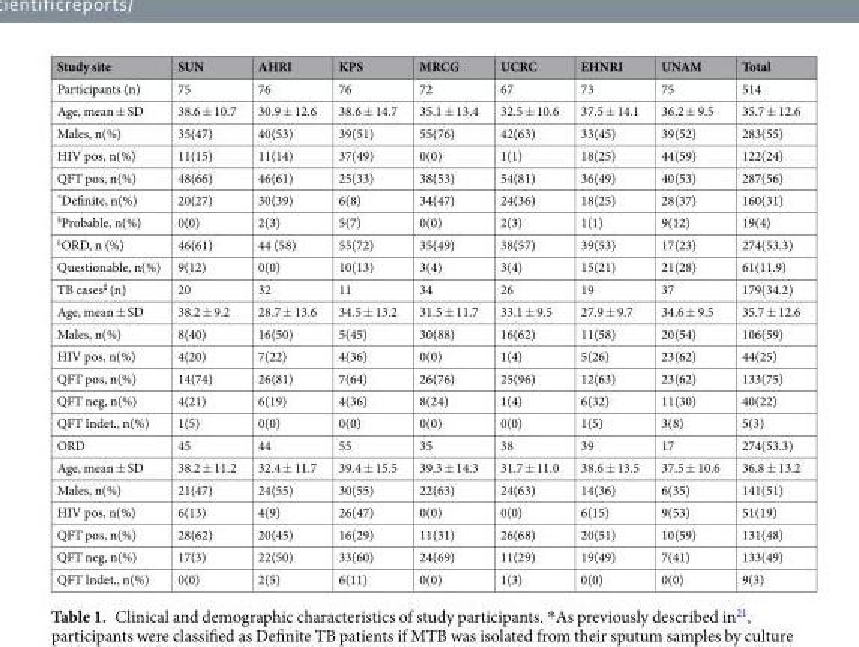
<table><thead><tr><td>Study site</td><td>SUN</td><td>AHRI</td><td>KPS</td><td>MRCG</td><td>UCRC</td><td>EHNRI</td><td>UNAM</td><td>Total</td></tr></thead><tbody><tr><td>Participants (n)</td><td>75</td><td>76</td><td>76</td><td>72</td><td>67</td><td>73</td><td>75</td><td>514</td></tr><tr><td>Age, mean ± SD</td><td>38.6 ± 10.7</td><td>30.9 ± 12.6</td><td>38.6 ± 14.7</td><td>35.1 ± 13.4</td><td>32.5 ± 10.6</td><td>37.5 ± 14.1</td><td>36.2 ± 9.5</td><td>35.7 ± 12.6</td></tr><tr><td>Males, n(%)</td><td>35(47)</td><td>40(53)</td><td>39(51)</td><td>55(76)</td><td>42(63)</td><td>33(45)</td><td>39(52)</td><td>283(55)</td></tr><tr><td>HIV pos, n(%)</td><td>11(15)</td><td>11(14)</td><td>37(49)</td><td>0(0)</td><td>1(1)</td><td>18(25)</td><td>44(59)</td><td>122(24)</td></tr><tr><td>QFT pos, n(%)</td><td>48(66)</td><td>46(61)</td><td>25(33)</td><td>38(53)</td><td>54(81)</td><td>36(49)</td><td>40(53)</td><td>287(56)</td></tr><tr><td>*Definite, n(%)</td><td>20(27)</td><td>30(39)</td><td>6(8)</td><td>34(47)</td><td>24(36)</td><td>18(25)</td><td>28(37)</td><td>160(31)</td></tr><tr><td><sup>$</sup>Probable, n(%)</td><td>0(0)</td><td>2(3)</td><td>5(7)</td><td>0(0)</td><td>2(3)</td><td>1(1)</td><td>9(12)</td><td>19(4)</td></tr><tr><td><sup>£</sup>ORD, n (%)</td><td>46(61)</td><td>44 (58)</td><td>55(72)</td><td>35(49)</td><td>38(57)</td><td>39(53)</td><td>17(23)</td><td>274(53.3)</td></tr><tr><td>Questionable, n(%)</td><td>9(12)</td><td>0(0)</td><td>10(13)</td><td>3(4)</td><td>3(4)</td><td>15(21)</td><td>21(28)</td><td>61(11.9)</td></tr><tr><td>TB cases<sup>♯</sup> (n)</td><td>20</td><td>32</td><td>11</td><td>34</td><td>26</td><td>19</td><td>37</td><td>179(34.2)</td></tr><tr><td>Age, mean ± SD</td><td>38.2 ± 9.2</td><td>28.7 ± 13.6</td><td>34.5 ± 13.2</td><td>31.5 ± 11.7</td><td>33.1 ± 9.5</td><td>27.9 ± 9.7</td><td>34.6 ± 9.5</td><td>35.7 ± 12.6</td></tr><tr><td>Males, n(%)</td><td>8(40)</td><td>16(50)</td><td>5(45)</td><td>30(88)</td><td>16(62)</td><td>11(58)</td><td>20(54)</td><td>106(59)</td></tr><tr><td>HIV pos, n(%)</td><td>4(20)</td><td>7(22)</td><td>4(36)</td><td>0(0)</td><td>1(4)</td><td>5(26)</td><td>23(62)</td><td>44(25)</td></tr><tr><td>QFT pos, n(%)</td><td>14(74)</td><td>26(81)</td><td>7(64)</td><td>26(76)</td><td>25(96)</td><td>12(63)</td><td>23(62)</td><td>133(75)</td></tr><tr><td>QFT neg, n(%)</td><td>4(21)</td><td>6(19)</td><td>4(36)</td><td>8(24)</td><td>1(4)</td><td>6(32)</td><td>11(30)</td><td>40(22)</td></tr><tr><td>QFT Indet., n(%)</td><td>1(5)</td><td>0(0)</td><td>0(0)</td><td>0(0)</td><td>0(0)</td><td>1(5)</td><td>3(8)</td><td>5(3)</td></tr><tr><td>ORD</td><td>45</td><td>44</td><td>55</td><td>35</td><td>38</td><td>39</td><td>17</td><td>274(53.3)</td></tr><tr><td>Age, mean ± SD</td><td>38.2 ± 11.2</td><td>32.4 ± 11.7</td><td>39.4 ± 15.5</td><td>39.3 ± 14.3</td><td>31.7 ± 11.0</td><td>38.6 ± 13.5</td><td>37.5 ± 10.6</td><td>36.8 ± 13.2</td></tr><tr><td>Males, n(%)</td><td>21(47)</td><td>24(55)</td><td>30(55)</td><td>22(63)</td><td>24(63)</td><td>14(36)</td><td>6(35)</td><td>141(51)</td></tr><tr><td>HIV pos, n(%)</td><td>6(13)</td><td>4(9)</td><td>26(47)</td><td>0(0)</td><td>0(0)</td><td>6(15)</td><td>9(53)</td><td>51(19)</td></tr><tr><td>QFT pos, n(%)</td><td>28(62)</td><td>20(45)</td><td>16(29)</td><td>11(31)</td><td>26(68)</td><td>20(51)</td><td>10(59)</td><td>131(48)</td></tr><tr><td>QFT neg, n(%)</td><td>17(3)</td><td>22(50)</td><td>33(60)</td><td>24(69)</td><td>11(29)</td><td>19(49)</td><td>7(41)</td><td>133(49)</td></tr><tr><td>QFT Indet., n(%)</td><td>0(0)</td><td>2(5)</td><td>6(11)</td><td>0(0)</td><td>1(3)</td><td>0(0)</td><td>0(0)</td><td>9(3)</td></tr></tbody></table>